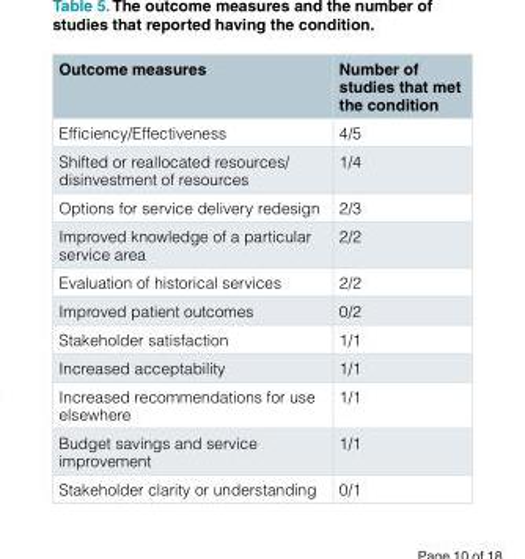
<table><thead><tr><td>Outcome measures</td><td>Number of studies that met the condition</td></tr></thead><tbody><tr><td>Efficiency/Effectiveness</td><td>4/5</td></tr><tr><td>Shifted or reallocated resources/ disinvestment of resources</td><td>1/4</td></tr><tr><td>Options for service delivery redesign</td><td>2/3</td></tr><tr><td>Improved knowledge of a particular service area</td><td>2/2</td></tr><tr><td>Evaluation of historical services</td><td>2/2</td></tr><tr><td>Improved patient outcomes</td><td>0/2</td></tr><tr><td>Stakeholder satisfaction</td><td>1/1</td></tr><tr><td>Increased acceptability</td><td>1/1</td></tr><tr><td>Increased recommendations for use elsewhere</td><td>1/1</td></tr><tr><td>Budget savings and service improvement</td><td>1/1</td></tr><tr><td>Stakeholder clarity or understanding</td><td>0/1</td></tr></tbody></table>